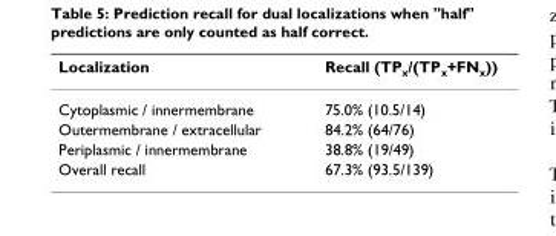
<table><thead><tr><td>Localization</td><td>Recall (TP<sub>x</sub>/(TP<sub>x</sub>+FN<sub>x</sub>))</td></tr></thead><tbody><tr><td>Cytoplasmic / innermembrane</td><td>75.0% (10.5/14)</td></tr><tr><td>Outermembrane / extracellular</td><td>84.2% (64/76)</td></tr><tr><td>Periplasmic / innermembrane</td><td>38.8% (19/49)</td></tr><tr><td>Overall recall</td><td>67.3% (93.5/139)</td></tr></tbody></table>